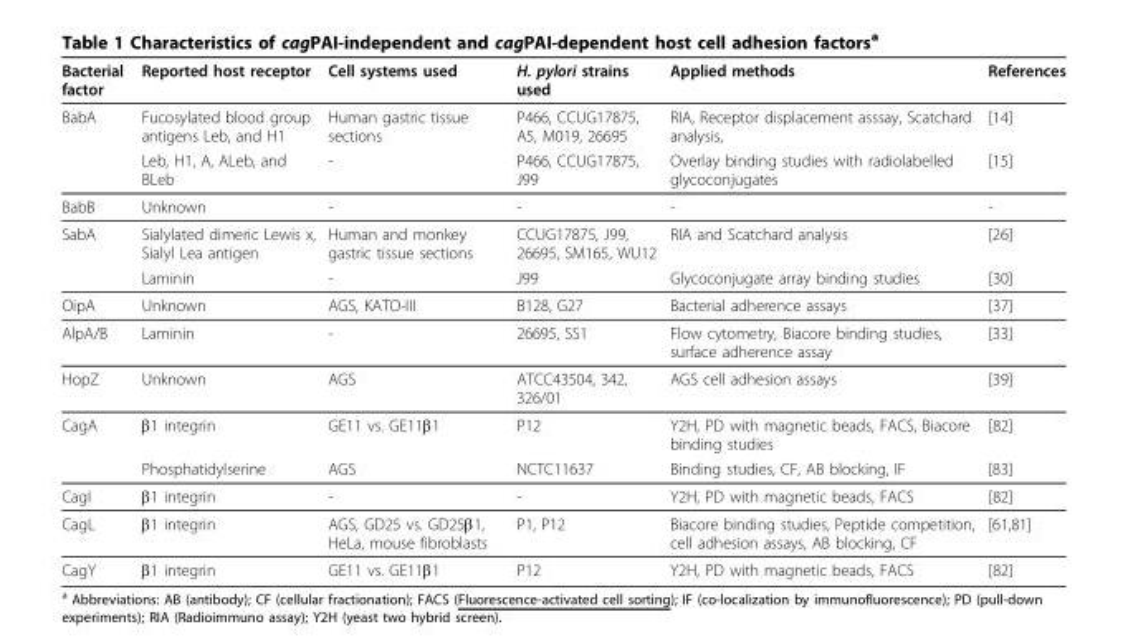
<table><thead><tr><td>Bacterial factor</td><td>Reported host receptor</td><td>Cell systems used</td><td>H. pylori strains used</td><td>Applied methods</td><td>References</td></tr></thead><tbody><tr><td rowspan="2">BabA</td><td>Fucosylated blood group antigens Leb, and H1</td><td>Human gastric tissue sections</td><td>P466, CCUG17875, A5, M019, 26695</td><td>RIA, Receptor displacement asssay, Scatchard analysis,</td><td>[14]</td></tr><tr><td>Leb, H1, A, ALeb, and BLeb</td><td>-</td><td>P466, CCUG17875, J99</td><td>Overlay binding studies with radiolabelled glycoconjugates</td><td>[15]</td></tr><tr><td>BabB</td><td>Unknown</td><td>-</td><td>-</td><td>-</td><td>-</td></tr><tr><td rowspan="2">SabA</td><td>Sialylated dimeric Lewis x, Sialyl Lea antigen</td><td>Human and monkey gastric tissue sections</td><td>CCUG17875, J99, 26695, SM165, WU12</td><td>RIA and Scatchard analysis</td><td>[26]</td></tr><tr><td>Laminin</td><td>-</td><td>J99</td><td>Glycoconjugate array binding studies</td><td>[30]</td></tr><tr><td>OipA</td><td>Unknown</td><td>AGS, KATO-III</td><td>B128, G27</td><td>Bacterial adherence assays</td><td>[37]</td></tr><tr><td>AlpA/B</td><td>Laminin</td><td>-</td><td>26695, SS1</td><td>Flow cytometry, Biacore binding studies, surface adherence assay</td><td>[33]</td></tr><tr><td>HopZ</td><td>Unknown</td><td>AGS</td><td>ATCC43504, 342, 326/01</td><td>AGS cell adhesion assays</td><td>[39]</td></tr><tr><td rowspan="2">CagA</td><td>β1 integrin</td><td>GE11 vs. GE11β1</td><td>P12</td><td>Y2H, PD with magnetic beads, FACS, Biacore binding studies</td><td>[82]</td></tr><tr><td>Phosphatidylserine</td><td>AGS</td><td>NCTC11637</td><td>Binding studies, CF, AB blocking, IF</td><td>[83]</td></tr><tr><td>CagI</td><td>β1 integrin</td><td>-</td><td>-</td><td>Y2H, PD with magnetic beads, FACS</td><td>[82]</td></tr><tr><td>CagL</td><td>β1 integrin</td><td>AGS, GD25 vs. GD25β1, HeLa, mouse fibroblasts</td><td>P1, P12</td><td>Biacore binding studies, Peptide competition, cell adhesion assays, AB blocking, CF</td><td>[61,81]</td></tr><tr><td>CagY</td><td>β1 integrin</td><td>GE11 vs. GE11β1</td><td>P12</td><td>Y2H, PD with magnetic beads, FACS</td><td>[82]</td></tr></tbody></table>